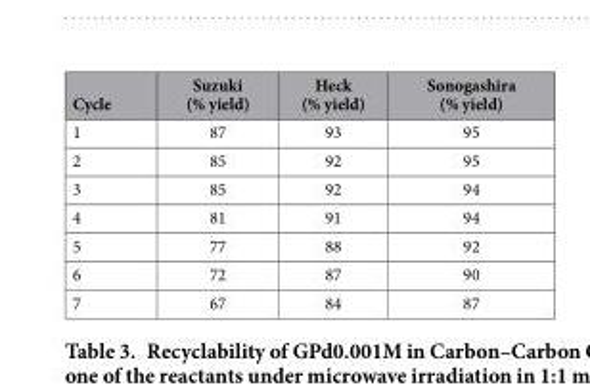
<table><thead><tr><td>Cycle</td><td>Suzuki (% yield)</td><td>Heck (% yield)</td><td>Sonogashira (% yield)</td></tr></thead><tbody><tr><td>1</td><td>87</td><td>93</td><td>95</td></tr><tr><td>2</td><td>85</td><td>92</td><td>95</td></tr><tr><td>3</td><td>85</td><td>92</td><td>94</td></tr><tr><td>4</td><td>81</td><td>91</td><td>94</td></tr><tr><td>5</td><td>77</td><td>88</td><td>92</td></tr><tr><td>6</td><td>72</td><td>87</td><td>90</td></tr><tr><td>7</td><td>67</td><td>84</td><td>87</td></tr></tbody></table>